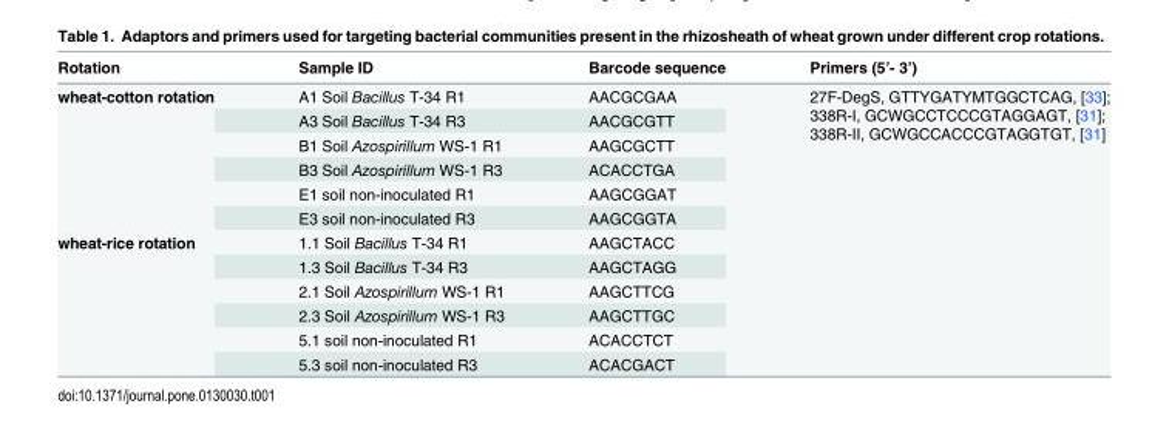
<table><thead><tr><td>Rotation</td><td>Sample ID</td><td>Barcode sequence</td><td>Primers (5’- 3’)</td></tr></thead><tbody><tr><td rowspan="6">wheat-cotton rotation</td><td>A1 Soil Bacillus T-34 R1</td><td>AACGCGAA</td><td rowspan="12">27F-DegS, GTTYGATYMTGGCTCAG, [33]; 338R-I, GCWGCCTCCCGTAGGAGT, [31]; 338R-II, GCWGCCACCCGTAGGTGT, [31]</td></tr><tr><td>A3 Soil Bacillus T-34 R3</td><td>AACGCGTT</td></tr><tr><td>B1 Soil Azospirillum WS-1 R1</td><td>AAGCGCTT</td></tr><tr><td>B3 Soil Azospirillum WS-1 R3</td><td>ACACCTGA</td></tr><tr><td>E1 soil non-inoculated R1</td><td>AAGCGGAT</td></tr><tr><td>E3 soil non-inoculated R3</td><td>AAGCGGTA</td></tr><tr><td rowspan="6">wheat-rice rotation</td><td>1.1 Soil Bacillus T-34 R1</td><td>AAGCTACC</td></tr><tr><td>1.3 Soil Bacillus T-34 R3</td><td>AAGCTAGG</td></tr><tr><td>2.1 Soil Azospirillum WS-1 R1</td><td>AAGCTTCG</td></tr><tr><td>2.3 Soil Azospirillum WS-1 R3</td><td>AAGCTTGC</td></tr><tr><td>5.1 soil non-inoculated R1</td><td>ACACCTCT</td></tr><tr><td>5.3 soil non-inoculated R3</td><td>ACACGACT</td></tr></tbody></table>